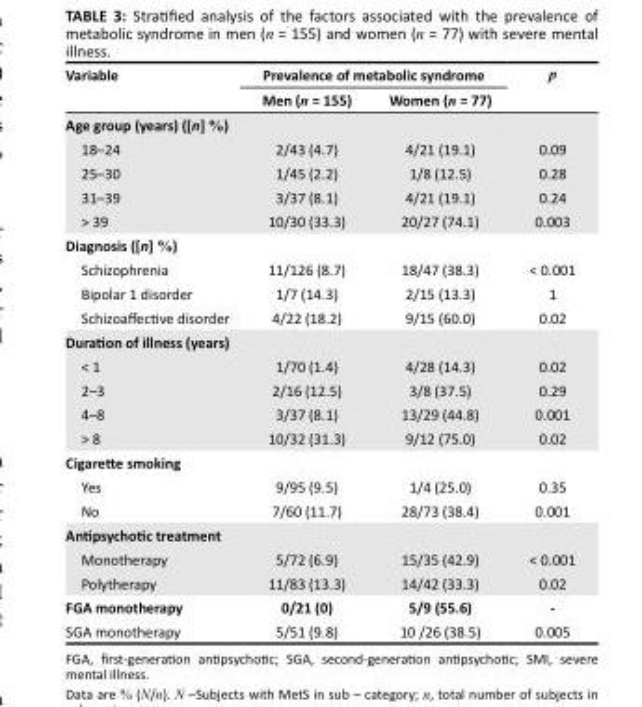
<table><thead><tr><td rowspan="2">Variable</td><td colspan="2">Prevalence of metabolic syndrome</td><td rowspan="2">p</td></tr><tr><td>Men (n = 155)</td><td>Women (n = 77)</td></tr></thead><tbody><tr><td colspan="4">Age group (years) ([n] %)</td></tr><tr><td>18–24</td><td>2/43 (4.7)</td><td>4/21 (19.1)</td><td>0.09</td></tr><tr><td>25–30</td><td>1/45 (2.2)</td><td>1/8 (12.5)</td><td>0.28</td></tr><tr><td>31–39</td><td>3/37 (8.1)</td><td>4/21 (19.1)</td><td>0.24</td></tr><tr><td>&gt; 39</td><td>10/30 (33.3)</td><td>20/27 (74.1)</td><td>0.003</td></tr><tr><td colspan="4">Diagnosis ([n] %)</td></tr><tr><td>Schizophrenia</td><td>11/126 (8.7)</td><td>18/47 (38.3)</td><td>&lt; 0.001</td></tr><tr><td>Bipolar 1 disorder</td><td>1/7 (14.3)</td><td>2/15 (13.3)</td><td>1</td></tr><tr><td>Schizoaffective disorder</td><td>4/22 (18.2)</td><td>9/15 (60.0)</td><td>0.02</td></tr><tr><td colspan="4">Duration of illness (years)</td></tr><tr><td>&lt; 1</td><td>1/70 (1.4)</td><td>4/28 (14.3)</td><td>0.02</td></tr><tr><td>2–3</td><td>2/16 (12.5)</td><td>3/8 (37.5)</td><td>0.29</td></tr><tr><td>4–8</td><td>3/37 (8.1)</td><td>13/29 (44.8)</td><td>0.001</td></tr><tr><td>&gt; 8</td><td>10/32 (31.3)</td><td>9/12 (75.0)</td><td>0.02</td></tr><tr><td colspan="4">Cigarette smoking</td></tr><tr><td>Yes</td><td>9/95 (9.5)</td><td>1/4 (25.0)</td><td>0.35</td></tr><tr><td>No</td><td>7/60 (11.7)</td><td>28/73 (38.4)</td><td>0.001</td></tr><tr><td colspan="4">Antipsychotic treatment</td></tr><tr><td>Monotherapy</td><td>5/72 (6.9)</td><td>15/35 (42.9)</td><td>&lt; 0.001</td></tr><tr><td>Polytherapy</td><td>11/83 (13.3)</td><td>14/42 (33.3)</td><td>0.02</td></tr><tr><td>FGA monotherapy</td><td>0/21 (0)</td><td>5/9 (55.6)</td><td>-</td></tr><tr><td>SGA monotherapy</td><td>5/51 (9.8)</td><td>10 /26 (38.5)</td><td>0.005</td></tr></tbody></table>